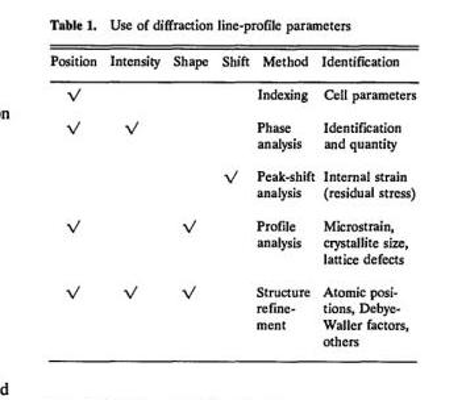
<table><thead><tr><td>Position</td><td>Intensity</td><td>Shape</td><td>Shift</td><td>Method</td><td>Identification</td></tr></thead><tbody><tr><td>√</td><td></td><td></td><td></td><td>Indexing</td><td>Cell parameters</td></tr><tr><td rowspan="2">√</td><td>√</td><td></td><td></td><td>Phase analysis</td><td>Identification and quantity</td></tr><tr><td></td><td></td><td>√</td><td>Peak-shift analysis</td><td>Internal strain (residual stress)</td></tr><tr><td>√</td><td></td><td>√</td><td></td><td>Profile analysis</td><td>Microstrain, crystallite size, lattice defects</td></tr><tr><td>√</td><td>√</td><td>√</td><td></td><td>Structure refine- ment</td><td>Atomic posi- tions, Debye- Waller factors, others</td></tr></tbody></table>